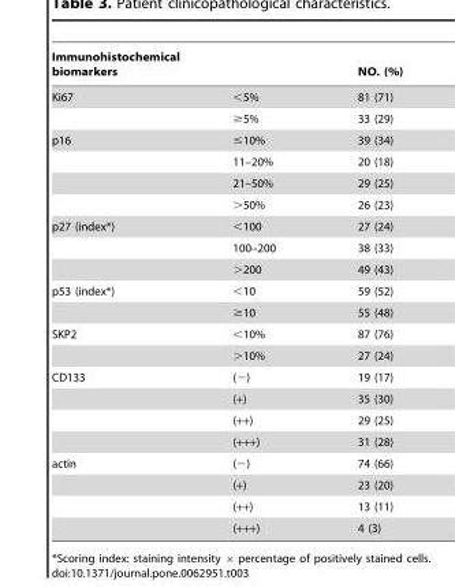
<table><thead><tr><td>Immunohistochemical biomarkers</td><td></td><td>NO. (%)</td></tr></thead><tbody><tr><td rowspan="2">Ki67</td><td>&lt;5%</td><td>81 (71)</td></tr><tr><td>≥5%</td><td>33 (29)</td></tr><tr><td rowspan="4">p16</td><td>≤10%</td><td>39 (34)</td></tr><tr><td>11–20%</td><td>20 (18)</td></tr><tr><td>21–50%</td><td>29 (25)</td></tr><tr><td>&gt;50%</td><td>26 (23)</td></tr><tr><td rowspan="3">p27 (index*)</td><td>&lt;100</td><td>27 (24)</td></tr><tr><td>100–200</td><td>38 (33)</td></tr><tr><td>&gt;200</td><td>49 (43)</td></tr><tr><td rowspan="2">p53 (index*)</td><td>&lt;10</td><td>59 (52)</td></tr><tr><td>≥10</td><td>55 (48)</td></tr><tr><td rowspan="2">SKP2</td><td>&lt;10%</td><td>87 (76)</td></tr><tr><td>&gt;10%</td><td>27 (24)</td></tr><tr><td rowspan="4">CD133</td><td>(−)</td><td>19 (17)</td></tr><tr><td>(+)</td><td>35 (30)</td></tr><tr><td>(++)</td><td>29 (25)</td></tr><tr><td>(+++)</td><td>31 (28)</td></tr><tr><td rowspan="4">actin</td><td>(−)</td><td>74 (66)</td></tr><tr><td>(+)</td><td>23 (20)</td></tr><tr><td>(++)</td><td>13 (11)</td></tr><tr><td>(+++)</td><td>4 (3)</td></tr></tbody></table>